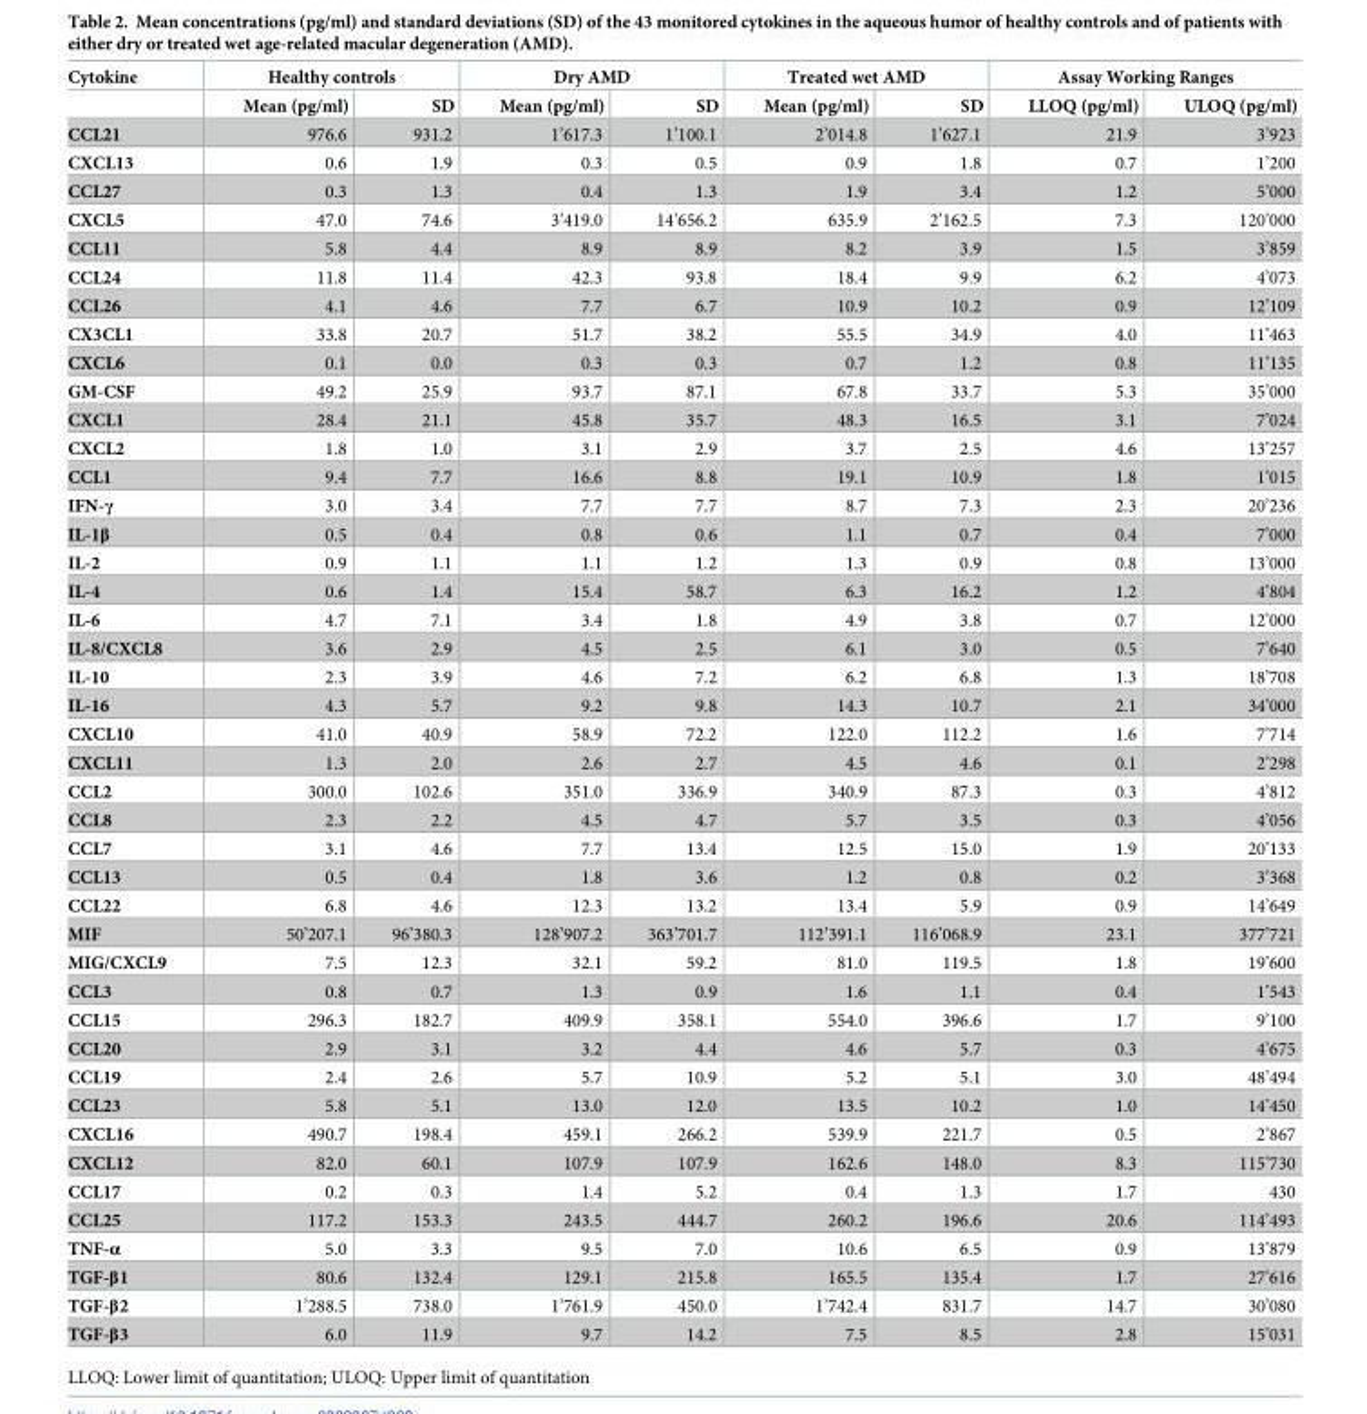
<table><thead><tr><td rowspan="2">Cytokine</td><td colspan="2">Healthy controls</td><td colspan="2">Dry AMD</td><td colspan="2">Treated wet AMD</td><td colspan="2">Assay Working Ranges</td></tr><tr><td>Mean (pg/ml)</td><td>SD</td><td>Mean (pg/ml)</td><td>SD</td><td>Mean (pg/ml)</td><td>SD</td><td>LLOQ (pg/ml)</td><td>ULOQ (pg/ml)</td></tr></thead><tbody><tr><td>CCL21</td><td>976.6</td><td>931.2</td><td>1’617.3</td><td>1’100.1</td><td>2’014.8</td><td>1’627.1</td><td>21.9</td><td>3’923</td></tr><tr><td>CXCL13</td><td>0.6</td><td>1.9</td><td>0.3</td><td>0.5</td><td>0.9</td><td>1.8</td><td>0.7</td><td>1’200</td></tr><tr><td>CCL27</td><td>0.3</td><td>1.3</td><td>0.4</td><td>1.3</td><td>1.9</td><td>3.4</td><td>1.2</td><td>5’000</td></tr><tr><td>CXCL5</td><td>47.0</td><td>74.6</td><td>3’419.0</td><td>14’656.2</td><td>635.9</td><td>2’162.5</td><td>7.3</td><td>120’000</td></tr><tr><td>CCL11</td><td>5.8</td><td>4.4</td><td>8.9</td><td>8.9</td><td>8.2</td><td>3.9</td><td>1.5</td><td>3’859</td></tr><tr><td>CCL24</td><td>11.8</td><td>11.4</td><td>42.3</td><td>93.8</td><td>18.4</td><td>9.9</td><td>6.2</td><td>4’073</td></tr><tr><td>CCL26</td><td>4.1</td><td>4.6</td><td>7.7</td><td>6.7</td><td>10.9</td><td>10.2</td><td>0.9</td><td>12’109</td></tr><tr><td>CX3CL1</td><td>33.8</td><td>20.7</td><td>51.7</td><td>38.2</td><td>55.5</td><td>34.9</td><td>4.0</td><td>11’463</td></tr><tr><td>CXCL6</td><td>0.1</td><td>0.0</td><td>0.3</td><td>0.3</td><td>0.7</td><td>1.2</td><td>0.8</td><td>11’135</td></tr><tr><td>GM-CSF</td><td>49.2</td><td>25.9</td><td>93.7</td><td>87.1</td><td>67.8</td><td>33.7</td><td>5.3</td><td>35’000</td></tr><tr><td>CXCL1</td><td>28.4</td><td>21.1</td><td>45.8</td><td>35.7</td><td>48.3</td><td>16.5</td><td>3.1</td><td>7’024</td></tr><tr><td>CXCL2</td><td>1.8</td><td>1.0</td><td>3.1</td><td>2.9</td><td>3.7</td><td>2.5</td><td>4.6</td><td>13’257</td></tr><tr><td>CCL1</td><td>9.4</td><td>7.7</td><td>16.6</td><td>8.8</td><td>19.1</td><td>10.9</td><td>1.8</td><td>1’015</td></tr><tr><td>IFN-γ</td><td>3.0</td><td>3.4</td><td>7.7</td><td>7.7</td><td>8.7</td><td>7.3</td><td>2.3</td><td>20’236</td></tr><tr><td>IL-1β</td><td>0.5</td><td>0.4</td><td>0.8</td><td>0.6</td><td>1.1</td><td>0.7</td><td>0.4</td><td>7’000</td></tr><tr><td>IL-2</td><td>0.9</td><td>1.1</td><td>1.1</td><td>1.2</td><td>1.3</td><td>0.9</td><td>0.8</td><td>13’000</td></tr><tr><td>IL-4</td><td>0.6</td><td>1.4</td><td>15.4</td><td>58.7</td><td>6.3</td><td>16.2</td><td>1.2</td><td>4’804</td></tr><tr><td>IL-6</td><td>4.7</td><td>7.1</td><td>3.4</td><td>1.8</td><td>4.9</td><td>3.8</td><td>0.7</td><td>12’000</td></tr><tr><td>IL-8/CXCL8</td><td>3.6</td><td>2.9</td><td>4.5</td><td>2.5</td><td>6.1</td><td>3.0</td><td>0.5</td><td>7’640</td></tr><tr><td>IL-10</td><td>2.3</td><td>3.9</td><td>4.6</td><td>7.2</td><td>6.2</td><td>6.8</td><td>1.3</td><td>18’708</td></tr><tr><td>IL-16</td><td>4.3</td><td>5.7</td><td>9.2</td><td>9.8</td><td>14.3</td><td>10.7</td><td>2.1</td><td>34’000</td></tr><tr><td>CXCL10</td><td>41.0</td><td>40.9</td><td>58.9</td><td>72.2</td><td>122.0</td><td>112.2</td><td>1.6</td><td>7’714</td></tr><tr><td>CXCL11</td><td>1.3</td><td>2.0</td><td>2.6</td><td>2.7</td><td>4.5</td><td>4.6</td><td>0.1</td><td>2’298</td></tr><tr><td>CCL2</td><td>300.0</td><td>102.6</td><td>351.0</td><td>336.9</td><td>340.9</td><td>87.3</td><td>0.3</td><td>4’812</td></tr><tr><td>CCL8</td><td>2.3</td><td>2.2</td><td>4.5</td><td>4.7</td><td>5.7</td><td>3.5</td><td>0.3</td><td>4’056</td></tr><tr><td>CCL7</td><td>3.1</td><td>4.6</td><td>7.7</td><td>13.4</td><td>12.5</td><td>15.0</td><td>1.9</td><td>20’133</td></tr><tr><td>CCL13</td><td>0.5</td><td>0.4</td><td>1.8</td><td>3.6</td><td>1.2</td><td>0.8</td><td>0.2</td><td>3’368</td></tr><tr><td>CCL22</td><td>6.8</td><td>4.6</td><td>12.3</td><td>13.2</td><td>13.4</td><td>5.9</td><td>0.9</td><td>14’649</td></tr><tr><td>MIF</td><td>50’207.1</td><td>96’380.3</td><td>128’907.2</td><td>363’701.7</td><td>112’391.1</td><td>116’068.9</td><td>23.1</td><td>377’721</td></tr><tr><td>MIG/CXCL9</td><td>7.5</td><td>12.3</td><td>32.1</td><td>59.2</td><td>81.0</td><td>119.5</td><td>1.8</td><td>19’600</td></tr><tr><td>CCL3</td><td>0.8</td><td>0.7</td><td>1.3</td><td>0.9</td><td>1.6</td><td>1.1</td><td>0.4</td><td>1’543</td></tr><tr><td>CCL15</td><td>296.3</td><td>182.7</td><td>409.9</td><td>358.1</td><td>554.0</td><td>396.6</td><td>1.7</td><td>9’100</td></tr><tr><td>CCL20</td><td>2.9</td><td>3.1</td><td>3.2</td><td>4.4</td><td>4.6</td><td>5.7</td><td>0.3</td><td>4’675</td></tr><tr><td>CCL19</td><td>2.4</td><td>2.6</td><td>5.7</td><td>10.9</td><td>5.2</td><td>5.1</td><td>3.0</td><td>48’494</td></tr><tr><td>CCL23</td><td>5.8</td><td>5.1</td><td>13.0</td><td>12.0</td><td>13.5</td><td>10.2</td><td>1.0</td><td>14’450</td></tr><tr><td>CXCL16</td><td>490.7</td><td>198.4</td><td>459.1</td><td>266.2</td><td>539.9</td><td>221.7</td><td>0.5</td><td>2’867</td></tr><tr><td>CXCL12</td><td>82.0</td><td>60.1</td><td>107.9</td><td>107.9</td><td>162.6</td><td>148.0</td><td>8.3</td><td>115’730</td></tr><tr><td>CCL17</td><td>0.2</td><td>0.3</td><td>1.4</td><td>5.2</td><td>0.4</td><td>1.3</td><td>1.7</td><td>430</td></tr><tr><td>CCL25</td><td>117.2</td><td>153.3</td><td>243.5</td><td>444.7</td><td>260.2</td><td>196.6</td><td>20.6</td><td>114’493</td></tr><tr><td>TNF-α</td><td>5.0</td><td>3.3</td><td>9.5</td><td>7.0</td><td>10.6</td><td>6.5</td><td>0.9</td><td>13’879</td></tr><tr><td>TGF-β1</td><td>80.6</td><td>132.4</td><td>129.1</td><td>215.8</td><td>165.5</td><td>135.4</td><td>1.7</td><td>27’616</td></tr><tr><td>TGF-β2</td><td>1’288.5</td><td>738.0</td><td>1’761.9</td><td>450.0</td><td>1’742.4</td><td>831.7</td><td>14.7</td><td>30’080</td></tr><tr><td>TGF-β3</td><td>6.0</td><td>11.9</td><td>9.7</td><td>14.2</td><td>7.5</td><td>8.5</td><td>2.8</td><td>15’031</td></tr></tbody></table>